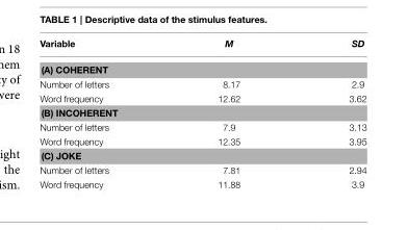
<table><thead><tr><td>Variable</td><td>M</td><td>SD</td></tr></thead><tbody><tr><td colspan="3">(A) COHERENT</td></tr><tr><td>Number of letters</td><td>8.17</td><td>2.9</td></tr><tr><td>Word frequency</td><td>12.62</td><td>3.62</td></tr><tr><td colspan="3">(B) INCOHERENT</td></tr><tr><td>Number of letters</td><td>7.9</td><td>3.13</td></tr><tr><td>Word frequency</td><td>12.35</td><td>3.95</td></tr><tr><td colspan="3">(C) JOKE</td></tr><tr><td>Number of letters</td><td>7.81</td><td>2.94</td></tr><tr><td>Word frequency</td><td>11.88</td><td>3.9</td></tr></tbody></table>